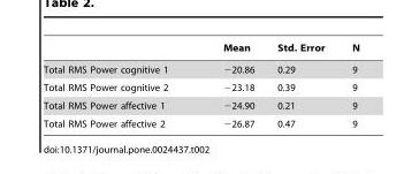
<table><thead><tr><td></td><td>Mean</td><td>Std. Error</td><td>N</td></tr></thead><tbody><tr><td>Total RMS Power cognitive 1</td><td>−20.86</td><td>0.29</td><td>9</td></tr><tr><td>Total RMS Power cognitive 2</td><td>−23.18</td><td>0.39</td><td>9</td></tr><tr><td>Total RMS Power affective 1</td><td>−24.90</td><td>0.21</td><td>9</td></tr><tr><td>Total RMS Power affective 2</td><td>−26.87</td><td>0.47</td><td>9</td></tr></tbody></table>